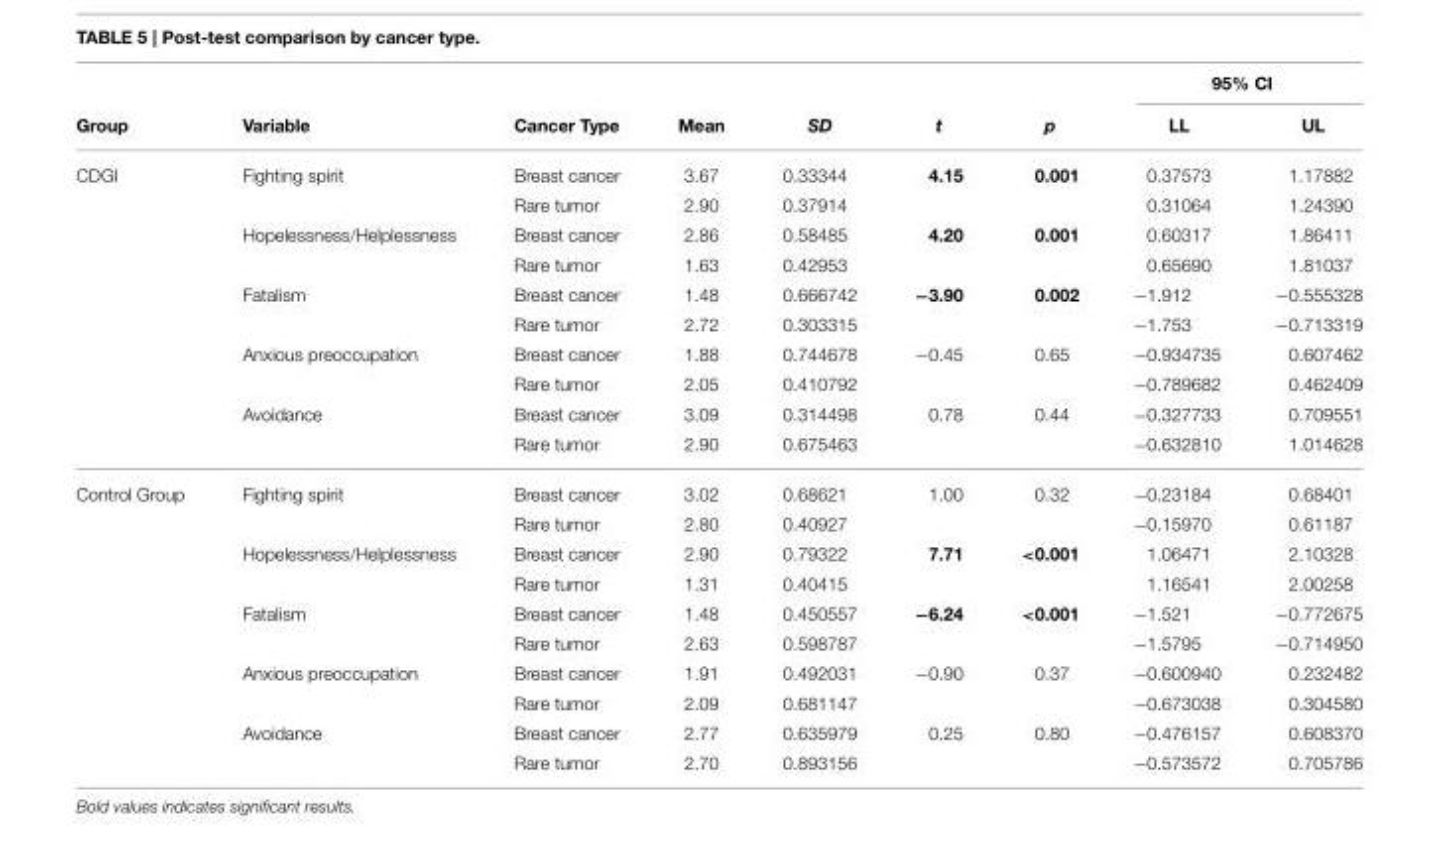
<table><thead><tr><td rowspan="2">Group</td><td rowspan="2">Variable</td><td rowspan="2">Cancer Type</td><td rowspan="2">Mean</td><td rowspan="2">SD</td><td rowspan="2">t</td><td rowspan="2">p</td><td colspan="2">95% CI</td></tr><tr><td>LL</td><td>UL</td></tr></thead><tbody><tr><td rowspan="10">CDGI</td><td>Fighting spirit</td><td>Breast cancer</td><td>3.67</td><td>0.33344</td><td>4.15</td><td>0.001</td><td>0.37573</td><td>1.17882</td></tr><tr><td></td><td>Rare tumor</td><td>2.90</td><td>0.37914</td><td></td><td></td><td>0.31064</td><td>1.24390</td></tr><tr><td>Hopelessness/Helplessness</td><td>Breast cancer</td><td>2.86</td><td>0.58485</td><td>4.20</td><td>0.001</td><td>0.60317</td><td>1.86411</td></tr><tr><td></td><td>Rare tumor</td><td>1.63</td><td>0.42953</td><td></td><td></td><td>0.65690</td><td>1.81037</td></tr><tr><td>Fatalism</td><td>Breast cancer</td><td>1.48</td><td>0.666742</td><td>−3.90</td><td>0.002</td><td>−1.912</td><td>−0.555328</td></tr><tr><td></td><td>Rare tumor</td><td>2.72</td><td>0.303315</td><td></td><td></td><td>−1.753</td><td>−0.713319</td></tr><tr><td>Anxious preoccupation</td><td>Breast cancer</td><td>1.88</td><td>0.744678</td><td>−0.45</td><td>0.65</td><td>−0.934735</td><td>0.607462</td></tr><tr><td></td><td>Rare tumor</td><td>2.05</td><td>0.410792</td><td></td><td></td><td>−0.789682</td><td>0.462409</td></tr><tr><td>Avoidance</td><td>Breast cancer</td><td>3.09</td><td>0.314498</td><td>0.78</td><td>0.44</td><td>−0.327733</td><td>0.709551</td></tr><tr><td></td><td>Rare tumor</td><td>2.90</td><td>0.675463</td><td></td><td></td><td>−0.632810</td><td>1.014628</td></tr><tr><td rowspan="10">Control Group</td><td>Fighting spirit</td><td>Breast cancer</td><td>3.02</td><td>0.68621</td><td>1.00</td><td>0.32</td><td>−0.23184</td><td>0.68401</td></tr><tr><td></td><td>Rare tumor</td><td>2.80</td><td>0.40927</td><td></td><td></td><td>−0.15970</td><td>0.61187</td></tr><tr><td>Hopelessness/Helplessness</td><td>Breast cancer</td><td>2.90</td><td>0.79322</td><td>7.71</td><td>&lt;0.001</td><td>1.06471</td><td>2.10328</td></tr><tr><td></td><td>Rare tumor</td><td>1.31</td><td>0.40415</td><td></td><td></td><td>1.16541</td><td>2.00258</td></tr><tr><td>Fatalism</td><td>Breast cancer</td><td>1.48</td><td>0.450557</td><td>−6.24</td><td>&lt;0.001</td><td>−1.521</td><td>−0.772675</td></tr><tr><td></td><td>Rare tumor</td><td>2.63</td><td>0.598787</td><td></td><td></td><td>−1.5795</td><td>−0.714950</td></tr><tr><td>Anxious preoccupation</td><td>Breast cancer</td><td>1.91</td><td>0.492031</td><td>−0.90</td><td>0.37</td><td>−0.600940</td><td>0.232482</td></tr><tr><td></td><td>Rare tumor</td><td>2.09</td><td>0.681147</td><td></td><td></td><td>−0.673038</td><td>0.304580</td></tr><tr><td>Avoidance</td><td>Breast cancer</td><td>2.77</td><td>0.635979</td><td>0.25</td><td>0.80</td><td>−0.476157</td><td>0.608370</td></tr><tr><td></td><td>Rare tumor</td><td>2.70</td><td>0.893156</td><td></td><td></td><td>−0.573572</td><td>0.705786</td></tr></tbody></table>